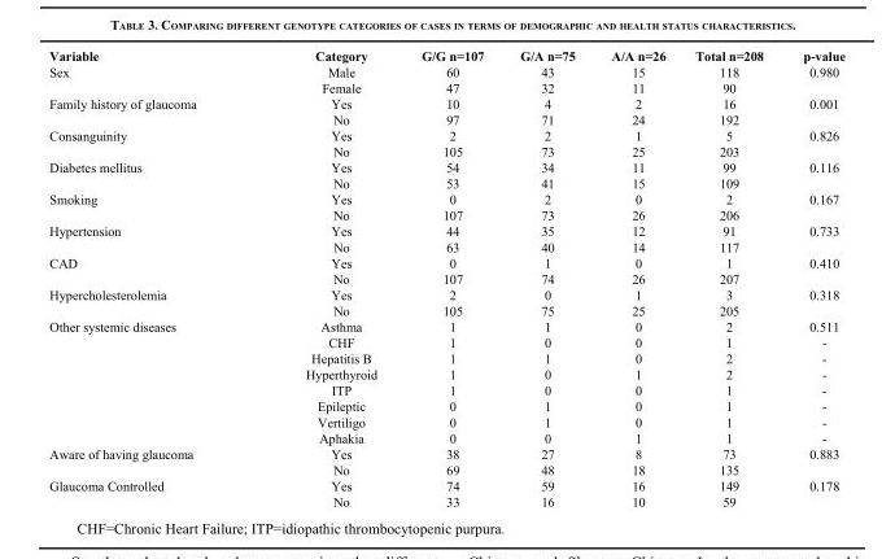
<table><thead><tr><td>Variable</td><td>Category</td><td>G/G n=107</td><td>G/A n=75</td><td>A/A n=26</td><td>Total n=208</td><td>p-value</td></tr></thead><tbody><tr><td rowspan="2">Sex</td><td>Male</td><td>60</td><td>43</td><td>15</td><td>118</td><td>0.980</td></tr><tr><td>Female</td><td>47</td><td>32</td><td>11</td><td>90</td><td></td></tr><tr><td rowspan="2">Family history of glaucoma</td><td>Yes</td><td>10</td><td>4</td><td>2</td><td>16</td><td>0.001</td></tr><tr><td>No</td><td>97</td><td>71</td><td>24</td><td>192</td><td></td></tr><tr><td rowspan="2">Consanguinity</td><td>Yes</td><td>2</td><td>2</td><td>1</td><td>5</td><td>0.826</td></tr><tr><td>No</td><td>105</td><td>73</td><td>25</td><td>203</td><td></td></tr><tr><td rowspan="2">Diabetes mellitus</td><td>Yes</td><td>54</td><td>34</td><td>11</td><td>99</td><td>0.116</td></tr><tr><td>No</td><td>53</td><td>41</td><td>15</td><td>109</td><td></td></tr><tr><td rowspan="2">Smoking</td><td>Yes</td><td>0</td><td>2</td><td>0</td><td>2</td><td>0.167</td></tr><tr><td>No</td><td>107</td><td>73</td><td>26</td><td>206</td><td></td></tr><tr><td rowspan="2">Hypertension</td><td>Yes</td><td>44</td><td>35</td><td>12</td><td>91</td><td>0.733</td></tr><tr><td>No</td><td>63</td><td>40</td><td>14</td><td>117</td><td></td></tr><tr><td rowspan="2">CAD</td><td>Yes</td><td>0</td><td>1</td><td>0</td><td>1</td><td>0.410</td></tr><tr><td>No</td><td>107</td><td>74</td><td>26</td><td>207</td><td></td></tr><tr><td rowspan="2">Hypercholesterolemia</td><td>Yes</td><td>2</td><td>0</td><td>1</td><td>3</td><td>0.318</td></tr><tr><td>No</td><td>105</td><td>75</td><td>25</td><td>205</td><td></td></tr><tr><td rowspan="8">Other systemic diseases</td><td>Asthma</td><td>1</td><td>1</td><td>0</td><td>2</td><td>0.511</td></tr><tr><td>CHF</td><td>1</td><td>0</td><td>0</td><td>1</td><td>-</td></tr><tr><td>Hepatitis B</td><td>1</td><td>1</td><td>0</td><td>2</td><td>-</td></tr><tr><td>Hyperthyroid</td><td>1</td><td>0</td><td>1</td><td>2</td><td>-</td></tr><tr><td>ITP</td><td>1</td><td>0</td><td>0</td><td>1</td><td>-</td></tr><tr><td>Epileptic</td><td>0</td><td>1</td><td>0</td><td>1</td><td>-</td></tr><tr><td>Vertiligo</td><td>0</td><td>1</td><td>0</td><td>1</td><td>-</td></tr><tr><td>Aphakia</td><td>0</td><td>0</td><td>1</td><td>1</td><td>-</td></tr><tr><td rowspan="2">Aware of having glaucoma</td><td>Yes</td><td>38</td><td>27</td><td>8</td><td>73</td><td>0.883</td></tr><tr><td>No</td><td>69</td><td>48</td><td>18</td><td>135</td><td></td></tr><tr><td rowspan="2">Glaucoma Controlled</td><td>Yes</td><td>74</td><td>59</td><td>16</td><td>149</td><td>0.178</td></tr><tr><td>No</td><td>33</td><td>16</td><td>10</td><td>59</td><td></td></tr></tbody></table>